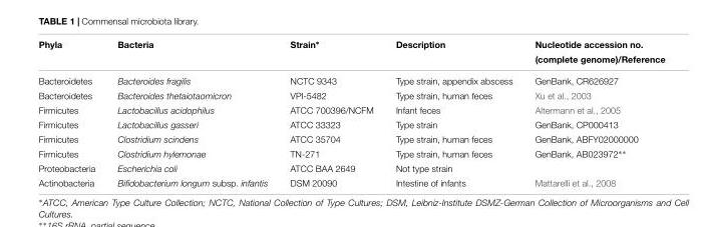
<table><thead><tr><td rowspan="2">Phyla</td><td rowspan="2">Bacteria</td><td rowspan="2">Strain∗</td><td rowspan="2">Description</td><td rowspan="2">Nucleotide accession no. (complete genome)/Reference</td></tr><tr></tr></thead><tbody><tr><td>Bacteroidetes</td><td>Bacteroides fragilis</td><td>NCTC 9343</td><td>Type strain, appendix abscess</td><td>GenBank, CR626927</td></tr><tr><td>Bacteroidetes</td><td>Bacteroides thetaiotaomicron</td><td>VPI-5482</td><td>Type strain, human feces</td><td>Xu et al., 2003</td></tr><tr><td>Firmicutes</td><td>Lactobacillus acidophilus</td><td>ATCC 700396/NCFM</td><td>Infant feces</td><td>Altermann et al., 2005</td></tr><tr><td>Firmicutes</td><td>Lactobacillus gasseri</td><td>ATCC 33323</td><td>Type strain</td><td>GenBank, CP000413</td></tr><tr><td>Firmicutes</td><td>Clostridium scindens</td><td>ATCC 35704</td><td>Type strain, human feces</td><td>GenBank, ABFY02000000</td></tr><tr><td>Firmicutes</td><td>Clostridium hylemonae</td><td>TN-271</td><td>Type strain, human feces</td><td>GenBank, AB023972∗∗</td></tr><tr><td>Proteobacteria</td><td>Escherichia coli</td><td>ATCC BAA 2649</td><td>Not type strain</td><td></td></tr><tr><td>Actinobacteria</td><td>Bifidobacterium longum subsp. infantis</td><td>DSM 20090</td><td>Intestine of infants</td><td>Mattarelli et al., 2008</td></tr></tbody></table>